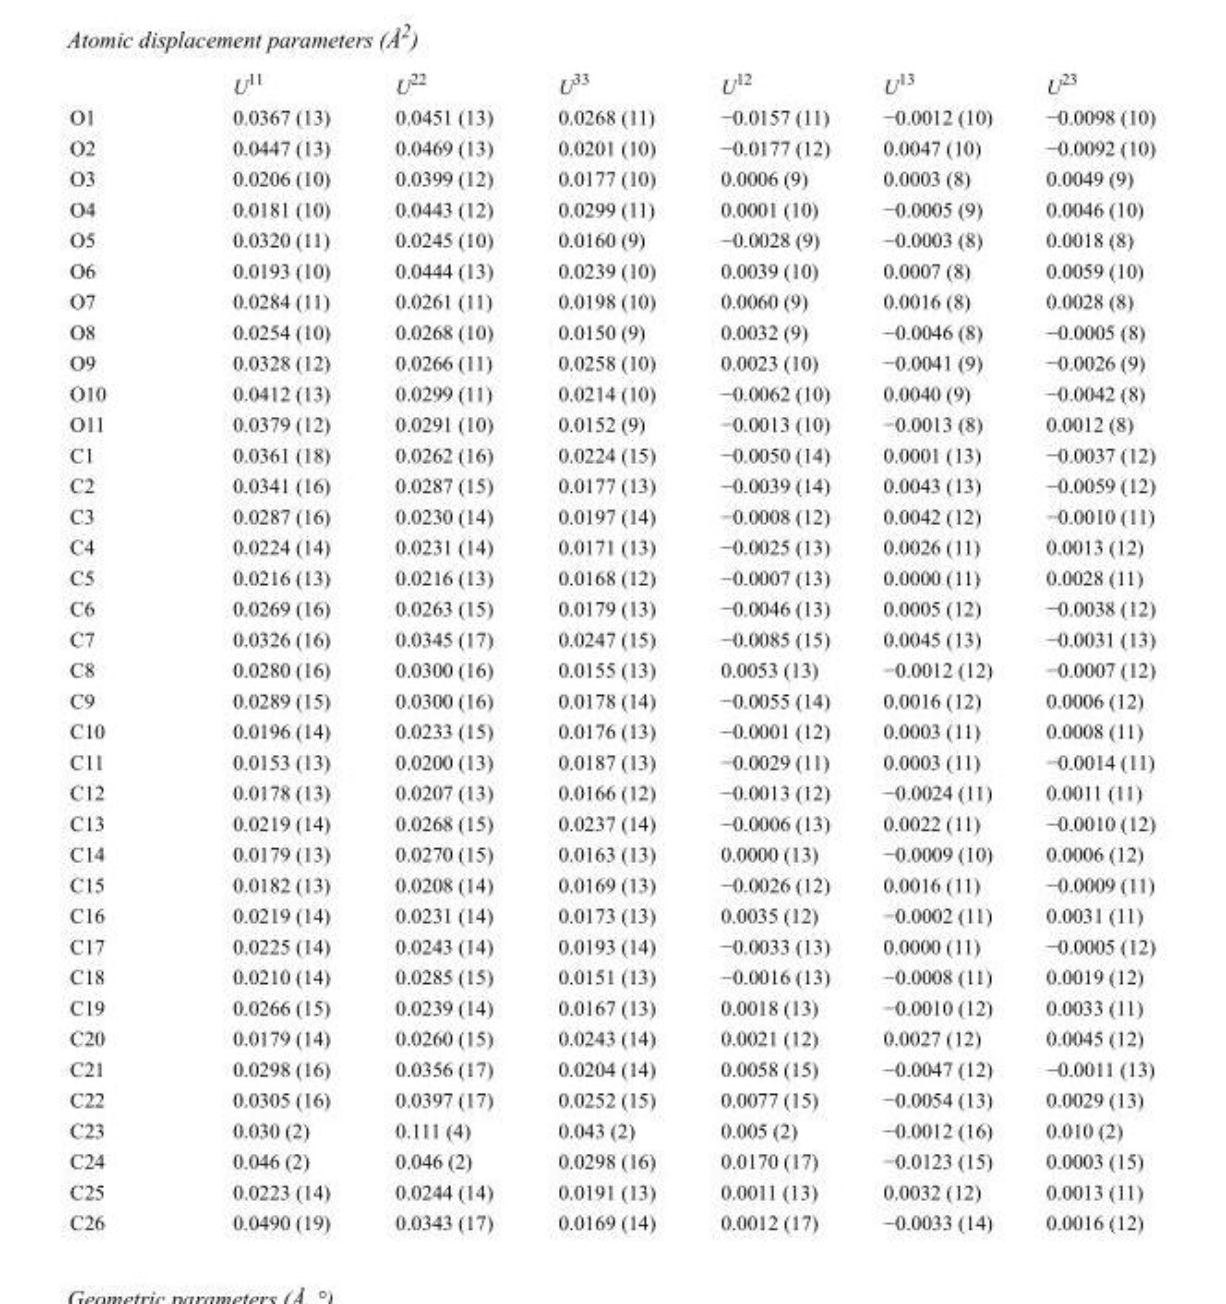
<table><thead><tr><td></td><td>U<sup>11</sup></td><td>U<sup>22</sup></td><td>U<sup>33</sup></td><td>U<sup>12</sup></td><td>U<sup>13</sup></td><td>U<sup>23</sup></td></tr></thead><tbody><tr><td>O1</td><td>0.0367 (13)</td><td>0.0451 (13)</td><td>0.0268 (11)</td><td>−0.0157 (11)</td><td>−0.0012 (10)</td><td>−0.0098 (10)</td></tr><tr><td>O2</td><td>0.0447 (13)</td><td>0.0469 (13)</td><td>0.0201 (10)</td><td>−0.0177 (12)</td><td>0.0047 (10)</td><td>−0.0092 (10)</td></tr><tr><td>O3</td><td>0.0206 (10)</td><td>0.0399 (12)</td><td>0.0177 (10)</td><td>0.0006 (9)</td><td>0.0003 (8)</td><td>0.0049 (9)</td></tr><tr><td>O4</td><td>0.0181 (10)</td><td>0.0443 (12)</td><td>0.0299 (11)</td><td>0.0001 (10)</td><td>−0.0005 (9)</td><td>0.0046 (10)</td></tr><tr><td>O5</td><td>0.0320 (11)</td><td>0.0245 (10)</td><td>0.0160 (9)</td><td>−0.0028 (9)</td><td>−0.0003 (8)</td><td>0.0018 (8)</td></tr><tr><td>O6</td><td>0.0193 (10)</td><td>0.0444 (13)</td><td>0.0239 (10)</td><td>0.0039 (10)</td><td>0.0007 (8)</td><td>0.0059 (10)</td></tr><tr><td>O7</td><td>0.0284 (11)</td><td>0.0261 (11)</td><td>0.0198 (10)</td><td>0.0060 (9)</td><td>0.0016 (8)</td><td>0.0028 (8)</td></tr><tr><td>O8</td><td>0.0254 (10)</td><td>0.0268 (10)</td><td>0.0150 (9)</td><td>0.0032 (9)</td><td>−0.0046 (8)</td><td>−0.0005 (8)</td></tr><tr><td>O9</td><td>0.0328 (12)</td><td>0.0266 (11)</td><td>0.0258 (10)</td><td>0.0023 (10)</td><td>−0.0041 (9)</td><td>−0.0026 (9)</td></tr><tr><td>O10</td><td>0.0412 (13)</td><td>0.0299 (11)</td><td>0.0214 (10)</td><td>−0.0062 (10)</td><td>0.0040 (9)</td><td>−0.0042 (8)</td></tr><tr><td>O11</td><td>0.0379 (12)</td><td>0.0291 (10)</td><td>0.0152 (9)</td><td>−0.0013 (10)</td><td>−0.0013 (8)</td><td>0.0012 (8)</td></tr><tr><td>C1</td><td>0.0361 (18)</td><td>0.0262 (16)</td><td>0.0224 (15)</td><td>−0.0050 (14)</td><td>0.0001 (13)</td><td>−0.0037 (12)</td></tr><tr><td>C2</td><td>0.0341 (16)</td><td>0.0287 (15)</td><td>0.0177 (13)</td><td>−0.0039 (14)</td><td>0.0043 (13)</td><td>−0.0059 (12)</td></tr><tr><td>C3</td><td>0.0287 (16)</td><td>0.0230 (14)</td><td>0.0197 (14)</td><td>−0.0008 (12)</td><td>0.0042 (12)</td><td>−0.0010 (11)</td></tr><tr><td>C4</td><td>0.0224 (14)</td><td>0.0231 (14)</td><td>0.0171 (13)</td><td>−0.0025 (13)</td><td>0.0026 (11)</td><td>0.0013 (12)</td></tr><tr><td>C5</td><td>0.0216 (13)</td><td>0.0216 (13)</td><td>0.0168 (12)</td><td>−0.0007 (13)</td><td>0.0000 (11)</td><td>0.0028 (11)</td></tr><tr><td>C6</td><td>0.0269 (16)</td><td>0.0263 (15)</td><td>0.0179 (13)</td><td>−0.0046 (13)</td><td>0.0005 (12)</td><td>−0.0038 (12)</td></tr><tr><td>C7</td><td>0.0326 (16)</td><td>0.0345 (17)</td><td>0.0247 (15)</td><td>−0.0085 (15)</td><td>0.0045 (13)</td><td>−0.0031 (13)</td></tr><tr><td>C8</td><td>0.0280 (16)</td><td>0.0300 (16)</td><td>0.0155 (13)</td><td>0.0053 (13)</td><td>−0.0012 (12)</td><td>−0.0007 (12)</td></tr><tr><td>C9</td><td>0.0289 (15)</td><td>0.0300 (16)</td><td>0.0178 (14)</td><td>−0.0055 (14)</td><td>0.0016 (12)</td><td>0.0006 (12)</td></tr><tr><td>C10</td><td>0.0196 (14)</td><td>0.0233 (15)</td><td>0.0176 (13)</td><td>−0.0001 (12)</td><td>0.0003 (11)</td><td>0.0008 (11)</td></tr><tr><td>C11</td><td>0.0153 (13)</td><td>0.0200 (13)</td><td>0.0187 (13)</td><td>−0.0029 (11)</td><td>0.0003 (11)</td><td>−0.0014 (11)</td></tr><tr><td>C12</td><td>0.0178 (13)</td><td>0.0207 (13)</td><td>0.0166 (12)</td><td>−0.0013 (12)</td><td>−0.0024 (11)</td><td>0.0011 (11)</td></tr><tr><td>C13</td><td>0.0219 (14)</td><td>0.0268 (15)</td><td>0.0237 (14)</td><td>−0.0006 (13)</td><td>0.0022 (11)</td><td>−0.0010 (12)</td></tr><tr><td>C14</td><td>0.0179 (13)</td><td>0.0270 (15)</td><td>0.0163 (13)</td><td>0.0000 (13)</td><td>−0.0009 (10)</td><td>0.0006 (12)</td></tr><tr><td>C15</td><td>0.0182 (13)</td><td>0.0208 (14)</td><td>0.0169 (13)</td><td>−0.0026 (12)</td><td>0.0016 (11)</td><td>−0.0009 (11)</td></tr><tr><td>C16</td><td>0.0219 (14)</td><td>0.0231 (14)</td><td>0.0173 (13)</td><td>0.0035 (12)</td><td>−0.0002 (11)</td><td>0.0031 (11)</td></tr><tr><td>C17</td><td>0.0225 (14)</td><td>0.0243 (14)</td><td>0.0193 (14)</td><td>−0.0033 (13)</td><td>0.0000 (11)</td><td>−0.0005 (12)</td></tr><tr><td>C18</td><td>0.0210 (14)</td><td>0.0285 (15)</td><td>0.0151 (13)</td><td>−0.0016 (13)</td><td>−0.0008 (11)</td><td>0.0019 (12)</td></tr><tr><td>C19</td><td>0.0266 (15)</td><td>0.0239 (14)</td><td>0.0167 (13)</td><td>0.0018 (13)</td><td>−0.0010 (12)</td><td>0.0033 (11)</td></tr><tr><td>C20</td><td>0.0179 (14)</td><td>0.0260 (15)</td><td>0.0243 (14)</td><td>0.0021 (12)</td><td>0.0027 (12)</td><td>0.0045 (12)</td></tr><tr><td>C21</td><td>0.0298 (16)</td><td>0.0356 (17)</td><td>0.0204 (14)</td><td>0.0058 (15)</td><td>−0.0047 (12)</td><td>−0.0011 (13)</td></tr><tr><td>C22</td><td>0.0305 (16)</td><td>0.0397 (17)</td><td>0.0252 (15)</td><td>0.0077 (15)</td><td>−0.0054 (13)</td><td>0.0029 (13)</td></tr><tr><td>C23</td><td>0.030 (2)</td><td>0.111 (4)</td><td>0.043 (2)</td><td>0.005 (2)</td><td>−0.0012 (16)</td><td>0.010 (2)</td></tr><tr><td>C24</td><td>0.046 (2)</td><td>0.046 (2)</td><td>0.0298 (16)</td><td>0.0170 (17)</td><td>−0.0123 (15)</td><td>0.0003 (15)</td></tr><tr><td>C25</td><td>0.0223 (14)</td><td>0.0244 (14)</td><td>0.0191 (13)</td><td>0.0011 (13)</td><td>0.0032 (12)</td><td>0.0013 (11)</td></tr><tr><td>C26</td><td>0.0490 (19)</td><td>0.0343 (17)</td><td>0.0169 (14)</td><td>0.0012 (17)</td><td>−0.0033 (14)</td><td>0.0016 (12)</td></tr></tbody></table>